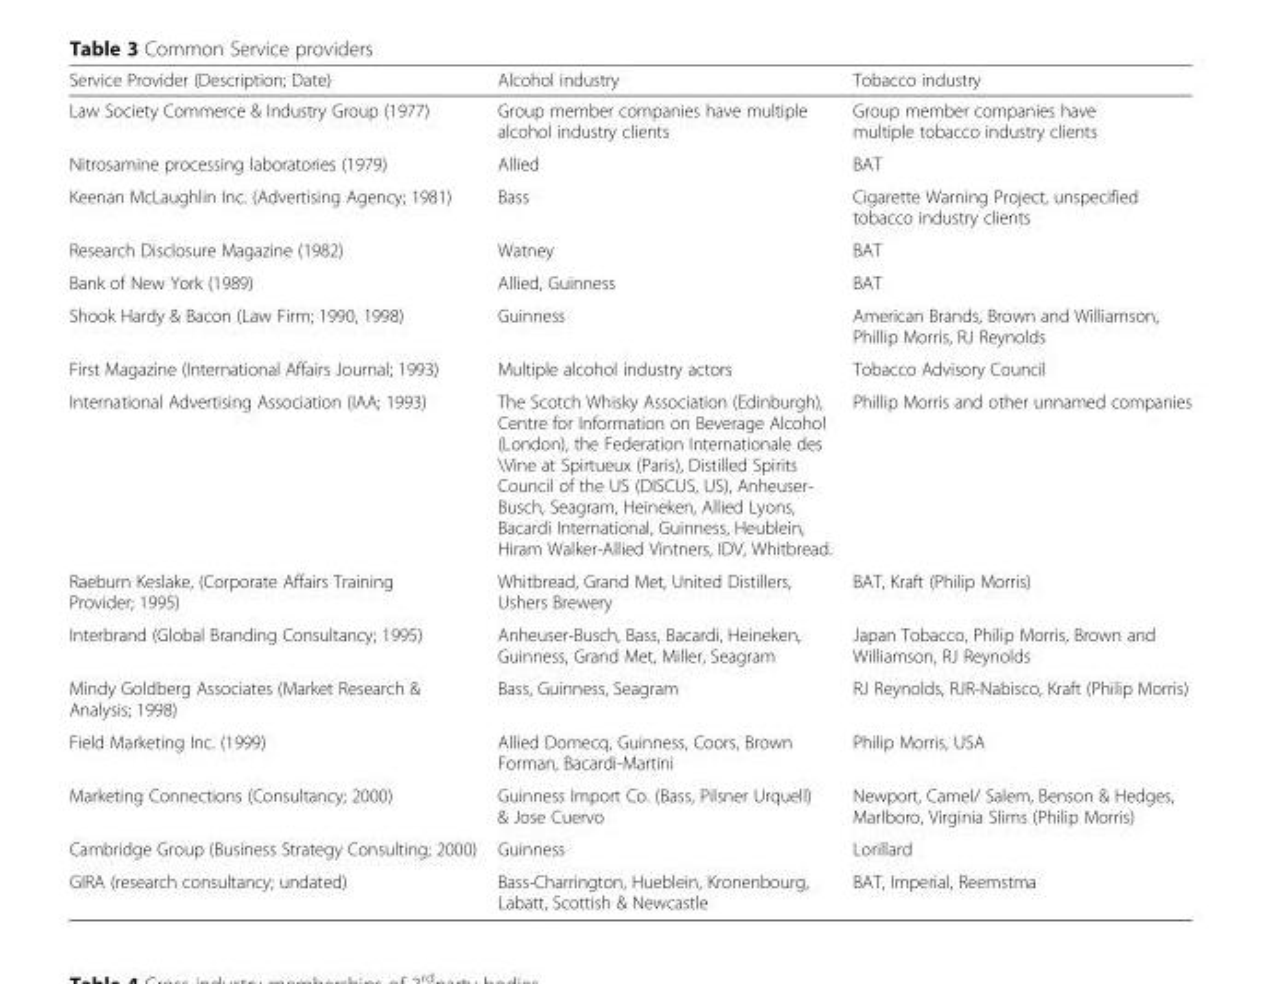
<table><thead><tr><td>Service Provider (Description; Date)</td><td>Alcohol industry</td><td>Tobacco industry</td></tr></thead><tbody><tr><td>Law Society Commerce &amp; Industry Group (1977)</td><td>Group member companies have multiple alcohol industry clients</td><td>Group member companies have multiple tobacco industry clients</td></tr><tr><td>Nitrosamine processing laboratories (1979)</td><td>Allied</td><td>BAT</td></tr><tr><td>Keenan McLaughlin Inc. (Advertising Agency; 1981)</td><td>Bass</td><td>Cigarette Warning Project, unspecified tobacco industry clients</td></tr><tr><td>Research Disclosure Magazine (1982)</td><td>Watney</td><td>BAT</td></tr><tr><td>Bank of New York (1989)</td><td>Allied, Guinness</td><td>BAT</td></tr><tr><td>Shook Hardy &amp; Bacon (Law Firm; 1990, 1998)</td><td>Guinness</td><td>American Brands, Brown and Williamson, Phillip Morris, RJ Reynolds</td></tr><tr><td>First Magazine (International Affairs Journal; 1993)</td><td>Multiple alcohol industry actors</td><td>Tobacco Advisory Council</td></tr><tr><td>International Advertising Association (IAA; 1993)</td><td>The Scotch Whisky Association (Edinburgh), Centre for Information on Beverage Alcohol (London), the Federation Internationale des \Vine at Spirtueux (Paris), Distilled Spirits Council of the US (DISCUS, US), Anheuser- Busch, Seagram, Heineken, Allied Lyons, Bacardi International, Guinness, Heublein, Hiram Walker-Allied Vintners, IDV, Whitbread.</td><td>Phillip Morris and other unnamed companies</td></tr><tr><td>Raeburn Keslake, (Corporate Affairs Training Provider; 1995)</td><td>Whitbread, Grand Met, United Distillers, Ushers Brewery</td><td>BAT, Kraft (Philip Morris)</td></tr><tr><td>Interbrand (Global Branding Consultancy; 1995)</td><td>Anheuser-Busch, Bass, Bacardi, Heineken, Guinness, Grand Met, Miller, Seagram</td><td>Japan Tobacco, Philip Morris, Brown and Williamson, RJ Reynolds</td></tr><tr><td>Mindy Goldberg Associates (Market Research &amp; Analysis; 1998)</td><td>Bass, Guinness, Seagram</td><td>RJ Reynolds, RJR-Nabisco, Kraft (Philip Morris)</td></tr><tr><td>Field Marketing Inc. (1999)</td><td>Allied Domecq, Guinness, Coors, Brown Forman, Bacardi-Martini</td><td>Philip Morris, USA</td></tr><tr><td>Marketing Connections (Consultancy; 2000)</td><td>Guinness Import Co. (Bass, Pilsner Urquell) &amp; Jose Cuervo</td><td>Newport, Camel/ Salem, Benson &amp; Hedges, Marlboro, Virginia Slims (Philip Morris)</td></tr><tr><td>Cambridge Group (Business Strategy Consulting; 2000)</td><td>Guinness</td><td>Lorillard</td></tr><tr><td>GIRA (research consultancy; undated)</td><td>Bass-Charrington, Hueblein, Kronenbourg, Labatt, Scottish &amp; Newcastle</td><td>BAT, Imperial, Reemstma</td></tr></tbody></table>